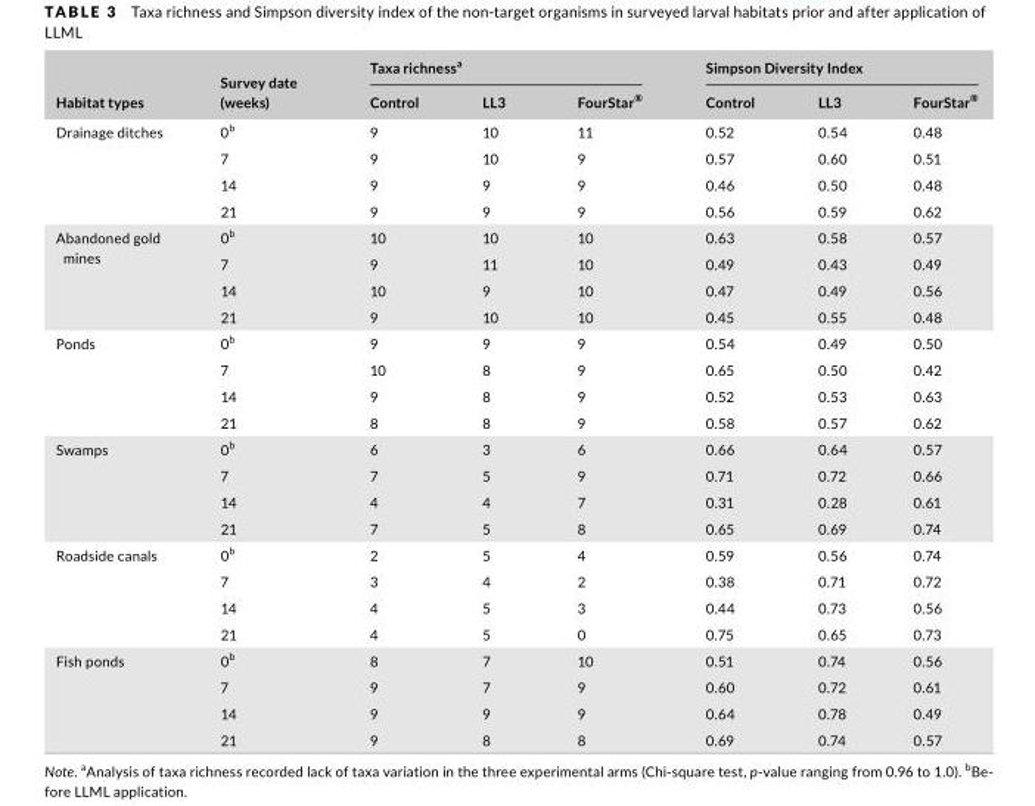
<table><thead><tr><td rowspan="2">Habitat types</td><td rowspan="2">Survey date (weeks)</td><td colspan="3">Taxa richness<sup>a</sup></td><td colspan="3">Simpson Diversity Index</td></tr><tr><td>Control</td><td>LL3</td><td>FourStar<sup>®</sup></td><td>Control</td><td>LL3</td><td>FourStar<sup>®</sup></td></tr></thead><tbody><tr><td rowspan="4">Drainage ditches</td><td>0<sup>b</sup></td><td>9</td><td>10</td><td>11</td><td>0.52</td><td>0.54</td><td>0.48</td></tr><tr><td>7</td><td>9</td><td>10</td><td>9</td><td>0.57</td><td>0.60</td><td>0.51</td></tr><tr><td>14</td><td>9</td><td>9</td><td>9</td><td>0.46</td><td>0.50</td><td>0.48</td></tr><tr><td>21</td><td>9</td><td>9</td><td>9</td><td>0.56</td><td>0.59</td><td>0.62</td></tr><tr><td rowspan="4">Abandoned gold mines</td><td>0<sup>b</sup></td><td>10</td><td>10</td><td>10</td><td>0.63</td><td>0.58</td><td>0.57</td></tr><tr><td>7</td><td>9</td><td>11</td><td>10</td><td>0.49</td><td>0.43</td><td>0.49</td></tr><tr><td>14</td><td>10</td><td>9</td><td>10</td><td>0.47</td><td>0.49</td><td>0.56</td></tr><tr><td>21</td><td>9</td><td>10</td><td>10</td><td>0.45</td><td>0.55</td><td>0.48</td></tr><tr><td rowspan="4">Ponds</td><td>0<sup>b</sup></td><td>9</td><td>9</td><td>9</td><td>0.54</td><td>0.49</td><td>0.50</td></tr><tr><td>7</td><td>10</td><td>8</td><td>9</td><td>0.65</td><td>0.50</td><td>0.42</td></tr><tr><td>14</td><td>9</td><td>8</td><td>9</td><td>0.52</td><td>0.53</td><td>0.63</td></tr><tr><td>21</td><td>8</td><td>8</td><td>9</td><td>0.58</td><td>0.57</td><td>0.62</td></tr><tr><td rowspan="4">Swamps</td><td>0<sup>b</sup></td><td>6</td><td>3</td><td>6</td><td>0.66</td><td>0.64</td><td>0.57</td></tr><tr><td>7</td><td>7</td><td>5</td><td>9</td><td>0.71</td><td>0.72</td><td>0.66</td></tr><tr><td>14</td><td>4</td><td>4</td><td>7</td><td>0.31</td><td>0.28</td><td>0.61</td></tr><tr><td>21</td><td>7</td><td>5</td><td>8</td><td>0.65</td><td>0.69</td><td>0.74</td></tr><tr><td rowspan="4">Roadside canals</td><td>0<sup>b</sup></td><td>2</td><td>5</td><td>4</td><td>0.59</td><td>0.56</td><td>0.74</td></tr><tr><td>7</td><td>3</td><td>4</td><td>2</td><td>0.38</td><td>0.71</td><td>0.72</td></tr><tr><td>14</td><td>4</td><td>5</td><td>3</td><td>0.44</td><td>0.73</td><td>0.56</td></tr><tr><td>21</td><td>4</td><td>5</td><td>0</td><td>0.75</td><td>0.65</td><td>0.73</td></tr><tr><td rowspan="4">Fish ponds</td><td>0<sup>b</sup></td><td>8</td><td>7</td><td>10</td><td>0.51</td><td>0.74</td><td>0.56</td></tr><tr><td>7</td><td>9</td><td>7</td><td>9</td><td>0.60</td><td>0.72</td><td>0.61</td></tr><tr><td>14</td><td>9</td><td>9</td><td>9</td><td>0.64</td><td>0.78</td><td>0.49</td></tr><tr><td>21</td><td>9</td><td>8</td><td>8</td><td>0.69</td><td>0.74</td><td>0.57</td></tr></tbody></table>